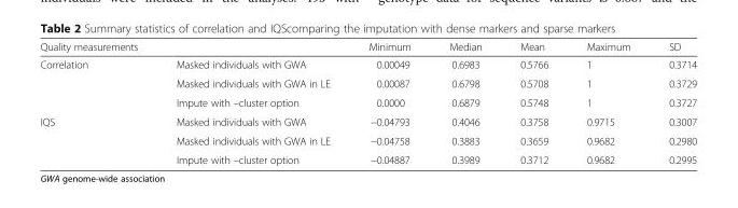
<table><thead><tr><td>Quality measurements</td><td></td><td>Minimum</td><td>Median</td><td>Mean</td><td>Maximum</td><td>SD</td></tr></thead><tbody><tr><td rowspan="3">Correlation</td><td>Masked individuals with GWA</td><td>0.00049</td><td>0.6983</td><td>0.5766</td><td>1</td><td>0.3714</td></tr><tr><td>Masked individuals with GWA in LE</td><td>0.00087</td><td>0.6798</td><td>0.5708</td><td>1</td><td>0.3729</td></tr><tr><td>Impute with –cluster option</td><td>0.0000</td><td>0.6879</td><td>0.5748</td><td>1</td><td>0.3727</td></tr><tr><td rowspan="3">IQS</td><td>Masked individuals with GWA</td><td>−0.04793</td><td>0.4046</td><td>0.3758</td><td>0.9715</td><td>0.3007</td></tr><tr><td>Masked individuals with GWA in LE</td><td>−0.04758</td><td>0.3883</td><td>0.3659</td><td>0.9682</td><td>0.2980</td></tr><tr><td>Impute with –cluster option</td><td>−0.04887</td><td>0.3989</td><td>0.3712</td><td>0.9682</td><td>0.2995</td></tr></tbody></table>